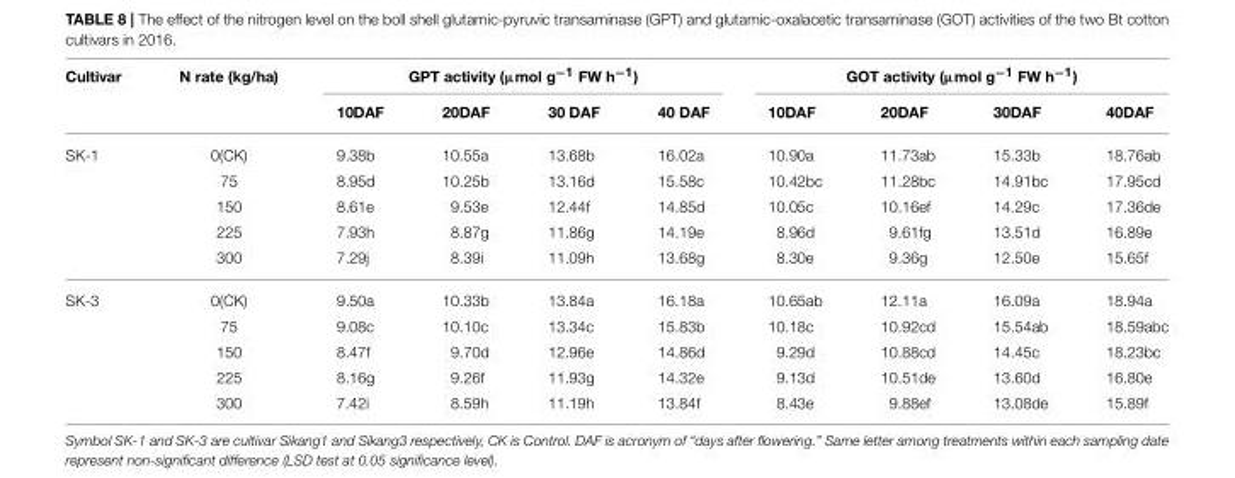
<table><thead><tr><td rowspan="2">Cultivar</td><td rowspan="2">N rate (kg/ha)</td><td colspan="4">GPT activity (µmol g<sup>−1</sup> FW h<sup>−1</sup>)</td><td colspan="4">GOT activity (µmol g<sup>−1</sup> FW h<sup>−1</sup>)</td></tr><tr><td>10DAF</td><td>20DAF</td><td>30 DAF</td><td>40 DAF</td><td>10DAF</td><td>20DAF</td><td>30DAF</td><td>40DAF</td></tr></thead><tbody><tr><td rowspan="5">SK-1</td><td>0(CK)</td><td>9.38b</td><td>10.55a</td><td>13.68b</td><td>16.02a</td><td>10.90a</td><td>11.73ab</td><td>15.33b</td><td>18.76ab</td></tr><tr><td>75</td><td>8.95d</td><td>10.25b</td><td>13.16d</td><td>15.58c</td><td>10.42bc</td><td>11.28bc</td><td>14.91bc</td><td>17.95cd</td></tr><tr><td>150</td><td>8.61e</td><td>9.53e</td><td>12.44f</td><td>14.85d</td><td>10.05c</td><td>10.16ef</td><td>14.29c</td><td>17.36de</td></tr><tr><td>225</td><td>7.93h</td><td>8.87g</td><td>11.86g</td><td>14.19e</td><td>8.96d</td><td>9.61fg</td><td>13.51d</td><td>16.89e</td></tr><tr><td>300</td><td>7.29j</td><td>8.39i</td><td>11.09h</td><td>13.68g</td><td>8.30e</td><td>9.36g</td><td>12.50e</td><td>15.65f</td></tr><tr><td rowspan="5">SK-3</td><td>0(CK)</td><td>9.50a</td><td>10.33b</td><td>13.84a</td><td>16.18a</td><td>10.65ab</td><td>12.11a</td><td>16.09a</td><td>18.94a</td></tr><tr><td>75</td><td>9.08c</td><td>10.10c</td><td>13.34c</td><td>15.83b</td><td>10.18c</td><td>10.92cd</td><td>15.54ab</td><td>18.59abc</td></tr><tr><td>150</td><td>8.47f</td><td>9.70d</td><td>12.96e</td><td>14.86d</td><td>9.29d</td><td>10.88cd</td><td>14.45c</td><td>18.23bc</td></tr><tr><td>225</td><td>8.16g</td><td>9.26f</td><td>11.93g</td><td>14.32e</td><td>9.13d</td><td>10.51de</td><td>13.60d</td><td>16.80e</td></tr><tr><td>300</td><td>7.42i</td><td>8.59h</td><td>11.19h</td><td>13.84f</td><td>8.43e</td><td>9.88ef</td><td>13.08de</td><td>15.89f</td></tr></tbody></table>